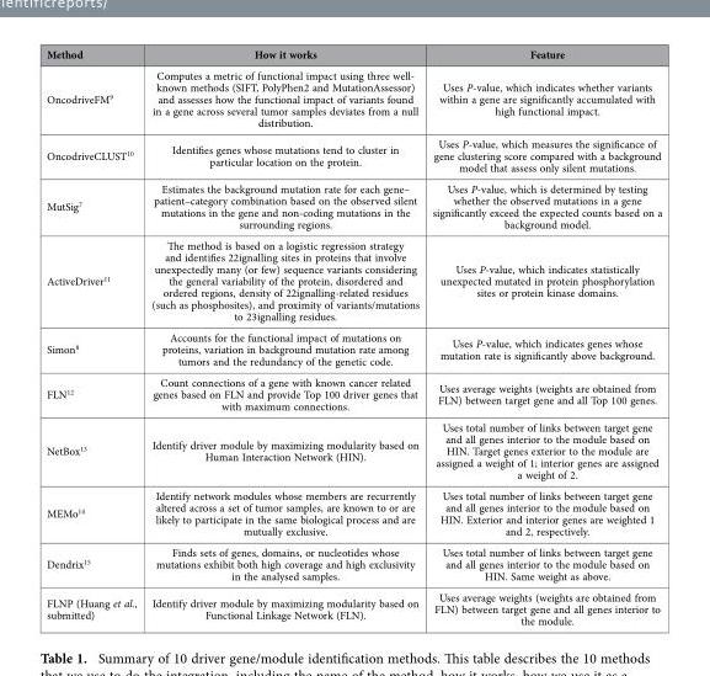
<table><thead><tr><td>Method</td><td>How it works</td><td>Feature</td></tr></thead><tbody><tr><td>OncodriveFM<sup>9</sup></td><td>Computes a metric of functional impact using three well- known methods (SIFT, PolyPhen2 and MutationAssessor) and assesses how the functional impact of variants found in a gene across several tumor samples deviates from a null distribution.</td><td>Uses P-value, which indicates whether variants within a gene are significantly accumulated with high functional impact.</td></tr><tr><td>OncodriveCLUST<sup>10</sup></td><td>Identifies genes whose mutations tend to cluster in particular location on the protein.</td><td>Uses P-value, which measures the significance of gene clustering score compared with a background model that assess only silent mutations.</td></tr><tr><td>MutSig<sup>7</sup></td><td>Estimates the background mutation rate for each gene– patient–category combination based on the observed silent mutations in the gene and non-coding mutations in the surrounding regions.</td><td>Uses P-value, which is determined by testing whether the observed mutations in a gene significantly exceed the expected counts based on a background model.</td></tr><tr><td>ActiveDriver<sup>11</sup></td><td>The method is based on a logistic regression strategy and identifies 22ignalling sites in proteins that involve unexpectedly many (or few) sequence variants considering the general variability of the protein, disordered and ordered regions, density of 22ignalling-related residues (such as phosphosites), and proximity of variants/mutations to 23ignalling residues.</td><td>Uses P-value, which indicates statistically unexpected mutated in protein phosphorylation sites or protein kinase domains.</td></tr><tr><td>Simon<sup>8</sup></td><td>Accounts for the functional impact of mutations on proteins, variation in background mutation rate among tumors and the redundancy of the genetic code.</td><td>Uses P-value, which indicates genes whose mutation rate is significantly above background.</td></tr><tr><td>FLN<sup>12</sup></td><td>Count connections of a gene with known cancer related genes based on FLN and provide Top 100 driver genes that with maximum connections.</td><td>Uses average weights (weights are obtained from FLN) between target gene and all Top 100 genes.</td></tr><tr><td>NetBox<sup>13</sup></td><td>Identify driver module by maximizing modularity based on Human Interaction Network (HIN).</td><td>Uses total number of links between target gene and all genes interior to the module based on HIN. Target genes exterior to the module are assigned a weight of 1; interior genes are assigned a weight of 2.</td></tr><tr><td>MEMo<sup>14</sup></td><td>Identify network modules whose members are recurrently altered across a set of tumor samples, are known to or are likely to participate in the same biological process and are mutually exclusive.</td><td>Uses total number of links between target gene and all genes interior to the module based on HIN. Exterior and interior genes are weighted 1 and 2, respectively.</td></tr><tr><td>Dendrix<sup>15</sup></td><td>Finds sets of genes, domains, or nucleotides whose mutations exhibit both high coverage and high exclusivity in the analysed samples.</td><td>Uses total number of links between target gene and all genes interior to the module based on HIN. Same weight as above.</td></tr><tr><td>FLNP (Huang et al., submitted)</td><td>Identify driver module by maximizing modularity based on Functional Linkage Network (FLN).</td><td>Uses average weights (weights are obtained from FLN) between target gene and all genes interior to the module.</td></tr></tbody></table>